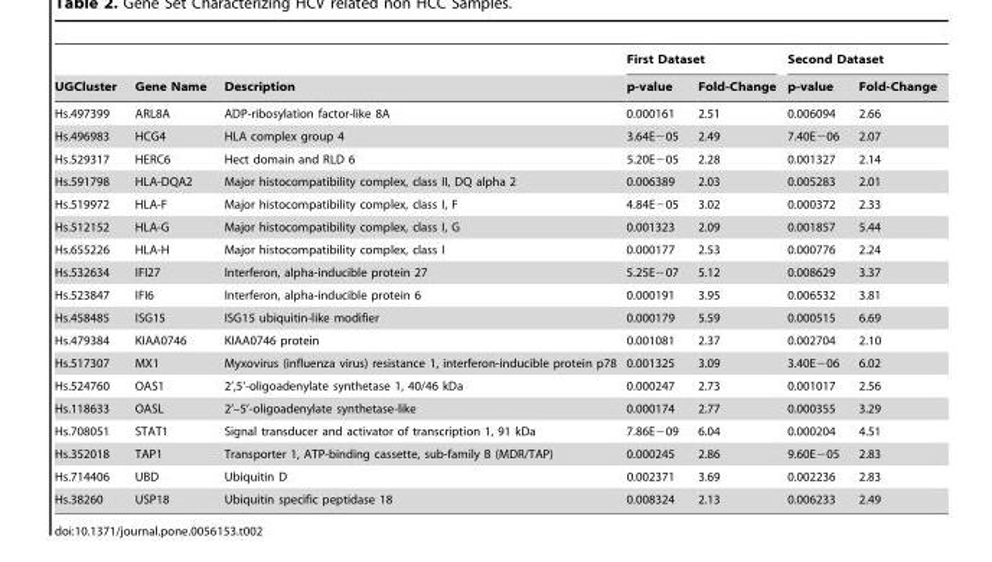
<table><thead><tr><td rowspan="2">UGCluster</td><td rowspan="2">Gene Name</td><td rowspan="2">Description</td><td colspan="2">First Dataset</td><td colspan="2">Second Dataset</td></tr><tr><td>p-value</td><td>Fold-Change</td><td>p-value</td><td>Fold-Change</td></tr></thead><tbody><tr><td>Hs.497399</td><td>ARL8A</td><td>ADP-ribosylation factor-like 8A</td><td>0.000161</td><td>2.51</td><td>0.006094</td><td>2.66</td></tr><tr><td>Hs.496983</td><td>HCG4</td><td>HLA complex group 4</td><td>3.64E−05</td><td>2.49</td><td>7.40E−06</td><td>2.07</td></tr><tr><td>Hs.529317</td><td>HERC6</td><td>Hect domain and RLD 6</td><td>5.20E−05</td><td>2.28</td><td>0.001327</td><td>2.14</td></tr><tr><td>Hs.591798</td><td>HLA-DQA2</td><td>Major histocompatibility complex, class II, DQ alpha 2</td><td>0.006389</td><td>2.03</td><td>0.005283</td><td>2.01</td></tr><tr><td>Hs.519972</td><td>HLA-F</td><td>Major histocompatibility complex, class I, F</td><td>4.84E−05</td><td>3.02</td><td>0.000372</td><td>2.33</td></tr><tr><td>Hs.512152</td><td>HLA-G</td><td>Major histocompatibility complex, class I, G</td><td>0.001323</td><td>2.09</td><td>0.001857</td><td>5.44</td></tr><tr><td>Hs.655226</td><td>HLA-H</td><td>Major histocompatibility complex, class I</td><td>0.000177</td><td>2.53</td><td>0.000776</td><td>2.24</td></tr><tr><td>Hs.532634</td><td>IFI27</td><td>Interferon, alpha-inducible protein 27</td><td>5.25E−07</td><td>5.12</td><td>0.008629</td><td>3.37</td></tr><tr><td>Hs.523847</td><td>IFI6</td><td>Interferon, alpha-inducible protein 6</td><td>0.000191</td><td>3.95</td><td>0.006532</td><td>3.81</td></tr><tr><td>Hs.458485</td><td>ISG15</td><td>ISG15 ubiquitin-like modifier</td><td>0.000179</td><td>5.59</td><td>0.000515</td><td>6.69</td></tr><tr><td>Hs.479384</td><td>KIAA0746</td><td>KIAA0746 protein</td><td>0.001081</td><td>2.37</td><td>0.002704</td><td>2.10</td></tr><tr><td>Hs.517307</td><td>MX1</td><td>Myxovirus (influenza virus) resistance 1, interferon-inducible protein p78</td><td>0.001325</td><td>3.09</td><td>3.40E−06</td><td>6.02</td></tr><tr><td>Hs.524760</td><td>OAS1</td><td>2’,5’-oligoadenylate synthetase 1, 40/46 kDa</td><td>0.000247</td><td>2.73</td><td>0.001017</td><td>2.56</td></tr><tr><td>Hs.118633</td><td>OASL</td><td>2’–5’-oligoadenylate synthetase-like</td><td>0.000174</td><td>2.77</td><td>0.000355</td><td>3.29</td></tr><tr><td>Hs.708051</td><td>STAT1</td><td>Signal transducer and activator of transcription 1, 91 kDa</td><td>7.86E−09</td><td>6.04</td><td>0.000204</td><td>4.51</td></tr><tr><td>Hs.352018</td><td>TAP1</td><td>Transporter 1, ATP-binding cassette, sub-family B (MDR/TAP)</td><td>0.000245</td><td>2.86</td><td>9.60E−05</td><td>2.83</td></tr><tr><td>Hs.714406</td><td>UBD</td><td>Ubiquitin D</td><td>0.002371</td><td>3.69</td><td>0.002236</td><td>2.83</td></tr><tr><td>Hs.38260</td><td>USP18</td><td>Ubiquitin specific peptidase 18</td><td>0.008324</td><td>2.13</td><td>0.006233</td><td>2.49</td></tr></tbody></table>